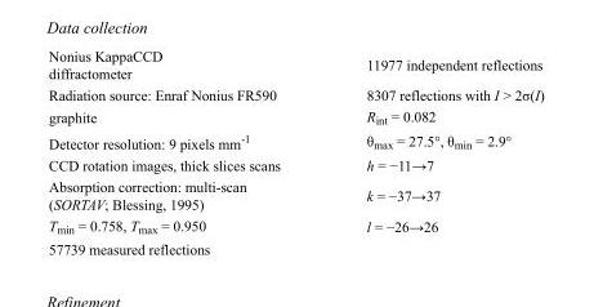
<table><tbody><tr><td>Nonius KappaCCD diffractometer</td><td>11977 independent reflections</td></tr><tr><td>Radiation source: Enraf Nonius FR590</td><td>8307 reflections with I &gt; 2σ(I)</td></tr><tr><td>graphite</td><td>R<sub>int</sub> = 0.082</td></tr><tr><td>Detector resolution: 9 pixels mm<sup>-1</sup></td><td>θ<sub>max</sub> = 27.5°, θ<sub>min</sub> = 2.9°</td></tr><tr><td>CCD rotation images, thick slices scans</td><td>h = −11→7</td></tr><tr><td>Absorption correction: multi-scan (SORTAV; Blessing, 1995)</td><td>k = −37→37</td></tr><tr><td>T<sub>min</sub> = 0.758, T<sub>max</sub> = 0.950</td><td>l = −26→26</td></tr><tr><td>57739 measured reflections</td><td></td></tr></tbody></table>